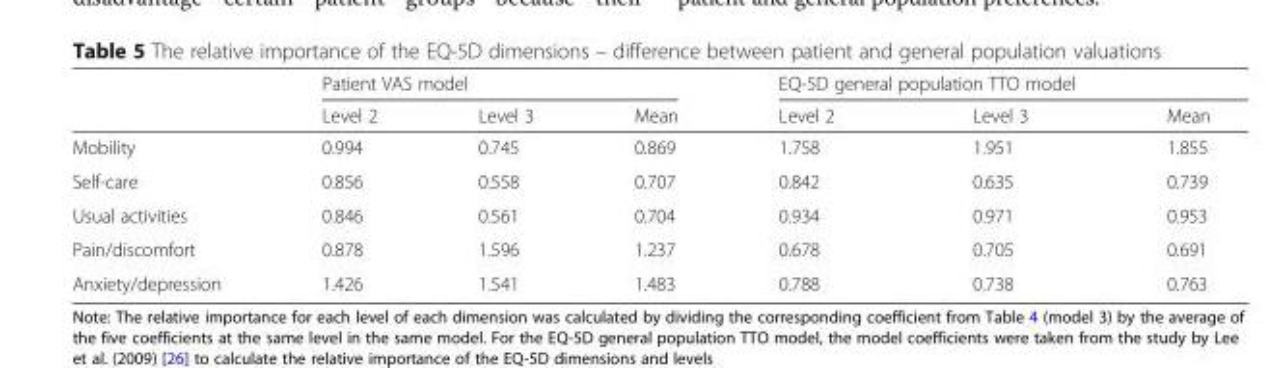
<table><thead><tr><td rowspan="2"></td><td colspan="3">Patient VAS model</td><td colspan="3">EQ-5D general population TTO model</td></tr><tr><td>Level 2</td><td>Level 3</td><td>Mean</td><td>Level 2</td><td>Level 3</td><td>Mean</td></tr></thead><tbody><tr><td>Mobility</td><td>0.994</td><td>0.745</td><td>0.869</td><td>1.758</td><td>1.951</td><td>1.855</td></tr><tr><td>Self-care</td><td>0.856</td><td>0.558</td><td>0.707</td><td>0.842</td><td>0.635</td><td>0.739</td></tr><tr><td>Usual activities</td><td>0.846</td><td>0.561</td><td>0.704</td><td>0.934</td><td>0.971</td><td>0.953</td></tr><tr><td>Pain/discomfort</td><td>0.878</td><td>1.596</td><td>1.237</td><td>0.678</td><td>0.705</td><td>0.691</td></tr><tr><td>Anxiety/depression</td><td>1.426</td><td>1.541</td><td>1.483</td><td>0.788</td><td>0.738</td><td>0.763</td></tr></tbody></table>